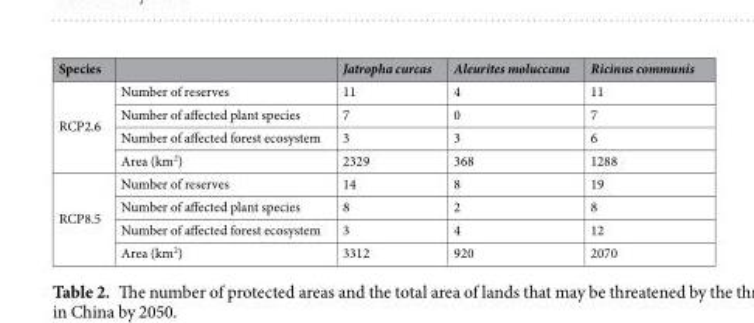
<table><thead><tr><td>Species</td><td></td><td>Jatropha curcas</td><td>Aleurites moluccana</td><td>Ricinus communis</td></tr></thead><tbody><tr><td rowspan="4">RCP2.6</td><td>Number of reserves</td><td>11</td><td>4</td><td>11</td></tr><tr><td>Number of affected plant species</td><td>7</td><td>0</td><td>7</td></tr><tr><td>Number of affected forest ecosystem</td><td>3</td><td>3</td><td>6</td></tr><tr><td>Area (km<sup>2</sup>)</td><td>2329</td><td>368</td><td>1288</td></tr><tr><td rowspan="4">RCP8.5</td><td>Number of reserves</td><td>14</td><td>8</td><td>19</td></tr><tr><td>Number of affected plant species</td><td>8</td><td>2</td><td>8</td></tr><tr><td>Number of affected forest ecosystem</td><td>3</td><td>4</td><td>12</td></tr><tr><td>Area (km<sup>2</sup>)</td><td>3312</td><td>920</td><td>2070</td></tr></tbody></table>